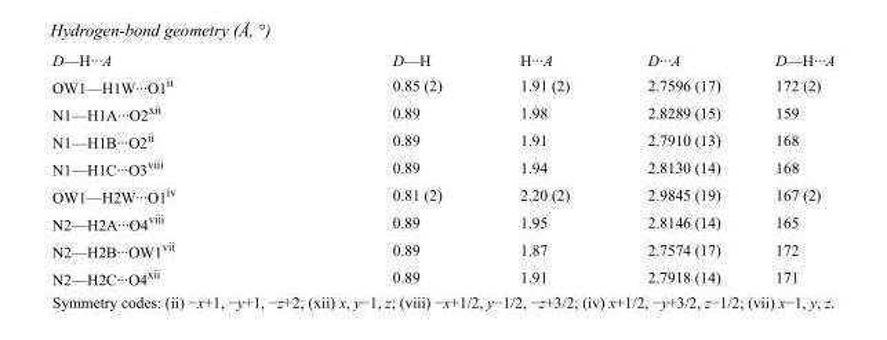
<table><tbody><tr><td>D—H···A</td><td>D—H</td><td>H···A</td><td>D···A</td><td>D—H···A</td></tr><tr><td>OW1—H1W···O1<sup>ii</sup></td><td>0.85 (2)</td><td>1.91 (2)</td><td>2.7596 (17)</td><td>172 (2)</td></tr><tr><td>N1—H1A···O2<sup>xii</sup></td><td>0.89</td><td>1.98</td><td>2.8289 (15)</td><td>159</td></tr><tr><td>N1—H1B···O2<sup>ii</sup></td><td>0.89</td><td>1.91</td><td>2.7910 (13)</td><td>168</td></tr><tr><td>N1—H1C···O3<sup>viii</sup></td><td>0.89</td><td>1.94</td><td>2.8130 (14)</td><td>168</td></tr><tr><td>OW1—H2W···O1<sup>iv</sup></td><td>0.81 (2)</td><td>2.20 (2)</td><td>2.9845 (19)</td><td>167 (2)</td></tr><tr><td>N2—H2A···O4<sup>viii</sup></td><td>0.89</td><td>1.95</td><td>2.8146 (14)</td><td>165</td></tr><tr><td>N2—H2B···OW1<sup>vii</sup></td><td>0.89</td><td>1.87</td><td>2.7574 (17)</td><td>172</td></tr><tr><td>N2—H2C···O4<sup>xii</sup></td><td>0.89</td><td>1.91</td><td>2.7918 (14)</td><td>171</td></tr></tbody></table>